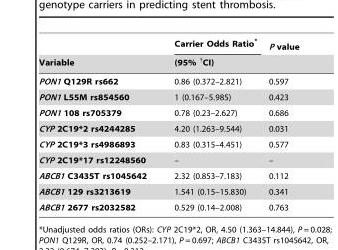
<table><thead><tr><td rowspan="2">Variable</td><td rowspan="2">Carrier Odds Ratio* (95% †CI)</td><td rowspan="2">P value</td></tr><tr></tr></thead><tbody><tr><td>PON1 Q129R rs662</td><td>0.86 (0.372–2.821)</td><td>0.597</td></tr><tr><td>PON1 L55M rs854560</td><td>1 (0.167–5.985)</td><td>0.423</td></tr><tr><td>PON1 108 rs705379</td><td>0.78 (0.23–2.627)</td><td>0.686</td></tr><tr><td>CYP 2C19*2 rs4244285</td><td>4.20 (1.263–9.544)</td><td>0.031</td></tr><tr><td>CYP 2C19*3 rs4986893</td><td>0.83 (0.315–4.451)</td><td>0.577</td></tr><tr><td>CYP 2C19*17 rs12248560</td><td>–</td><td>–</td></tr><tr><td>ABCB1 C3435T rs1045642</td><td>2.32 (0.853–7.183)</td><td>0.112</td></tr><tr><td>ABCB1 129 rs3213619</td><td>1.541 (0.15–15.830)</td><td>0.341</td></tr><tr><td>ABCB1 2677 rs2032582</td><td>0.529 (0.14–2.008)</td><td>0.763</td></tr></tbody></table>